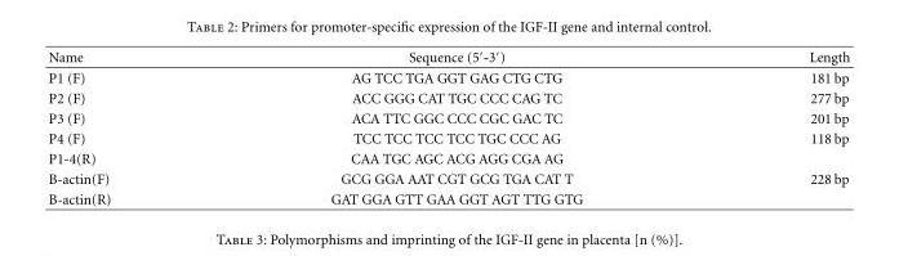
<table><thead><tr><td>Name</td><td>Sequence (5′-3′)</td><td>Length</td></tr></thead><tbody><tr><td>P1 (F)</td><td>AG TCC TGA GGT GAG CTG CTG</td><td>181 bp</td></tr><tr><td>P2 (F)</td><td>ACC GGG CAT TGC CCC CAG TC</td><td>277 bp</td></tr><tr><td>P3 (F)</td><td>ACA TTC GGC CCC CGC GAC TC</td><td>201 bp</td></tr><tr><td>P4 (F)</td><td>TCC TCC TCC TCC TGC CCC AG</td><td>118 bp</td></tr><tr><td>P1-4(R)</td><td>CAA TGC AGC ACG AGG CGA AG</td><td></td></tr><tr><td>B-actin(F)</td><td>GCG GGA AAT CGT GCG TGA CAT T</td><td>228 bp</td></tr><tr><td>B-actin(R)</td><td>GAT GGA GTT GAA GGT AGT TTG GTG</td><td></td></tr></tbody></table>